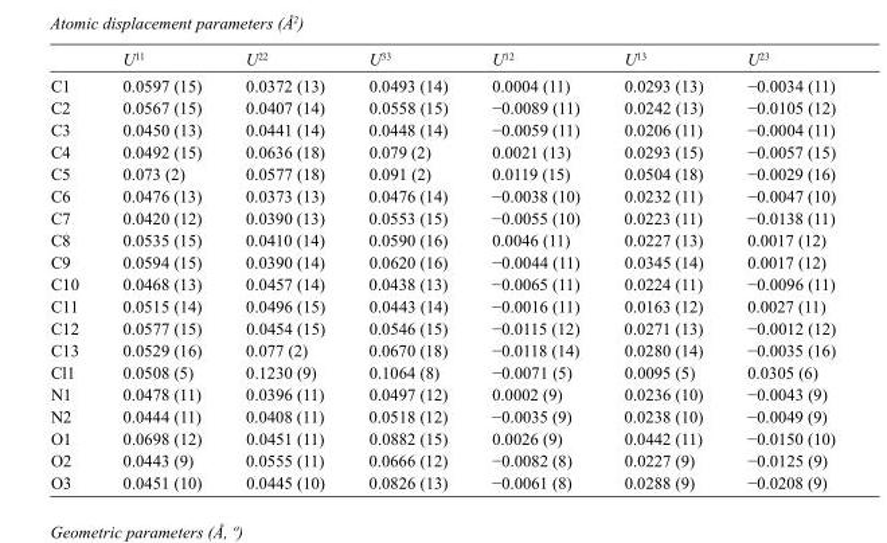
<table><thead><tr><td></td><td>U<sup>11</sup></td><td>U<sup>22</sup></td><td>U<sup>33</sup></td><td>U<sup>12</sup></td><td>U<sup>13</sup></td><td>U<sup>23</sup></td></tr></thead><tbody><tr><td>C1</td><td>0.0597 (15)</td><td>0.0372 (13)</td><td>0.0493 (14)</td><td>0.0004 (11)</td><td>0.0293 (13)</td><td>−0.0034 (11)</td></tr><tr><td>C2</td><td>0.0567 (15)</td><td>0.0407 (14)</td><td>0.0558 (15)</td><td>−0.0089 (11)</td><td>0.0242 (13)</td><td>−0.0105 (12)</td></tr><tr><td>C3</td><td>0.0450 (13)</td><td>0.0441 (14)</td><td>0.0448 (14)</td><td>−0.0059 (11)</td><td>0.0206 (11)</td><td>−0.0004 (11)</td></tr><tr><td>C4</td><td>0.0492 (15)</td><td>0.0636 (18)</td><td>0.079 (2)</td><td>0.0021 (13)</td><td>0.0293 (15)</td><td>−0.0057 (15)</td></tr><tr><td>C5</td><td>0.073 (2)</td><td>0.0577 (18)</td><td>0.091 (2)</td><td>0.0119 (15)</td><td>0.0504 (18)</td><td>−0.0029 (16)</td></tr><tr><td>C6</td><td>0.0476 (13)</td><td>0.0373 (13)</td><td>0.0476 (14)</td><td>−0.0038 (10)</td><td>0.0232 (11)</td><td>−0.0047 (10)</td></tr><tr><td>C7</td><td>0.0420 (12)</td><td>0.0390 (13)</td><td>0.0553 (15)</td><td>−0.0055 (10)</td><td>0.0223 (11)</td><td>−0.0138 (11)</td></tr><tr><td>C8</td><td>0.0535 (15)</td><td>0.0410 (14)</td><td>0.0590 (16)</td><td>0.0046 (11)</td><td>0.0227 (13)</td><td>0.0017 (12)</td></tr><tr><td>C9</td><td>0.0594 (15)</td><td>0.0390 (14)</td><td>0.0620 (16)</td><td>−0.0044 (11)</td><td>0.0345 (14)</td><td>0.0017 (12)</td></tr><tr><td>C10</td><td>0.0468 (13)</td><td>0.0457 (14)</td><td>0.0438 (13)</td><td>−0.0065 (11)</td><td>0.0224 (11)</td><td>−0.0096 (11)</td></tr><tr><td>C11</td><td>0.0515 (14)</td><td>0.0496 (15)</td><td>0.0443 (14)</td><td>−0.0016 (11)</td><td>0.0163 (12)</td><td>0.0027 (11)</td></tr><tr><td>C12</td><td>0.0577 (15)</td><td>0.0454 (15)</td><td>0.0546 (15)</td><td>−0.0115 (12)</td><td>0.0271 (13)</td><td>−0.0012 (12)</td></tr><tr><td>C13</td><td>0.0529 (16)</td><td>0.077 (2)</td><td>0.0670 (18)</td><td>−0.0118 (14)</td><td>0.0280 (14)</td><td>−0.0035 (16)</td></tr><tr><td>Cl1</td><td>0.0508 (5)</td><td>0.1230 (9)</td><td>0.1064 (8)</td><td>−0.0071 (5)</td><td>0.0095 (5)</td><td>0.0305 (6)</td></tr><tr><td>N1</td><td>0.0478 (11)</td><td>0.0396 (11)</td><td>0.0497 (12)</td><td>0.0002 (9)</td><td>0.0236 (10)</td><td>−0.0043 (9)</td></tr><tr><td>N2</td><td>0.0444 (11)</td><td>0.0408 (11)</td><td>0.0518 (12)</td><td>−0.0035 (9)</td><td>0.0238 (10)</td><td>−0.0049 (9)</td></tr><tr><td>O1</td><td>0.0698 (12)</td><td>0.0451 (11)</td><td>0.0882 (15)</td><td>0.0026 (9)</td><td>0.0442 (11)</td><td>−0.0150 (10)</td></tr><tr><td>O2</td><td>0.0443 (9)</td><td>0.0555 (11)</td><td>0.0666 (12)</td><td>−0.0082 (8)</td><td>0.0227 (9)</td><td>−0.0125 (9)</td></tr><tr><td>O3</td><td>0.0451 (10)</td><td>0.0445 (10)</td><td>0.0826 (13)</td><td>−0.0061 (8)</td><td>0.0288 (9)</td><td>−0.0208 (9)</td></tr></tbody></table>